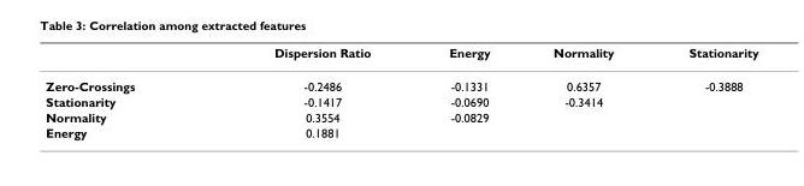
<table><thead><tr><td></td><td>Dispersion Ratio</td><td>Energy</td><td>Normality</td><td>Stationarity</td></tr></thead><tbody><tr><td>Zero-Crossings</td><td>-0.2486</td><td>-0.1331</td><td>0.6357</td><td>-0.3888</td></tr><tr><td>Stationarity</td><td>-0.1417</td><td>-0.0690</td><td>-0.3414</td><td></td></tr><tr><td>Normality</td><td>0.3554</td><td>-0.0829</td><td></td><td></td></tr><tr><td>Energy</td><td>0.1881</td><td></td><td></td><td></td></tr></tbody></table>